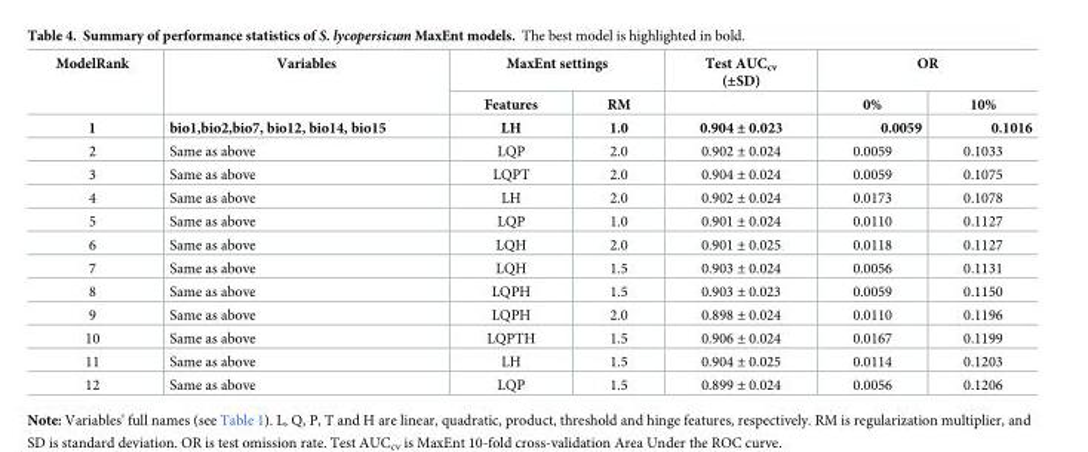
<table><thead><tr><td rowspan="2">ModelRank</td><td rowspan="2">Variables</td><td colspan="2">MaxEnt settings</td><td rowspan="2">Test AUC<sub>cv</sub> (±SD)</td><td colspan="2">OR</td></tr><tr><td>Features</td><td>RM</td><td>0%</td><td>10%</td></tr></thead><tbody><tr><td>1</td><td>bio1,bio2,bio7, bio12, bio14, bio15</td><td>LH</td><td>1.0</td><td>0.904 ± 0.023</td><td>0.0059</td><td>0.1016</td></tr><tr><td>2</td><td>Same as above</td><td>LQP</td><td>2.0</td><td>0.902 ± 0.024</td><td>0.0059</td><td>0.1033</td></tr><tr><td>3</td><td>Same as above</td><td>LQPT</td><td>2.0</td><td>0.904 ± 0.024</td><td>0.0059</td><td>0.1075</td></tr><tr><td>4</td><td>Same as above</td><td>LH</td><td>2.0</td><td>0.902 ± 0.024</td><td>0.0173</td><td>0.1078</td></tr><tr><td>5</td><td>Same as above</td><td>LQP</td><td>1.0</td><td>0.901 ± 0.024</td><td>0.0110</td><td>0.1127</td></tr><tr><td>6</td><td>Same as above</td><td>LQH</td><td>2.0</td><td>0.901 ± 0.025</td><td>0.0118</td><td>0.1127</td></tr><tr><td>7</td><td>Same as above</td><td>LQH</td><td>1.5</td><td>0.903 ± 0.024</td><td>0.0056</td><td>0.1131</td></tr><tr><td>8</td><td>Same as above</td><td>LQPH</td><td>1.5</td><td>0.903 ± 0.023</td><td>0.0059</td><td>0.1150</td></tr><tr><td>9</td><td>Same as above</td><td>LQPH</td><td>2.0</td><td>0.898 ± 0.024</td><td>0.0110</td><td>0.1196</td></tr><tr><td>10</td><td>Same as above</td><td>LQPTH</td><td>1.5</td><td>0.906 ± 0.024</td><td>0.0167</td><td>0.1199</td></tr><tr><td>11</td><td>Same as above</td><td>LH</td><td>1.5</td><td>0.904 ± 0.025</td><td>0.0114</td><td>0.1203</td></tr><tr><td>12</td><td>Same as above</td><td>LQP</td><td>1.5</td><td>0.899 ± 0.024</td><td>0.0056</td><td>0.1206</td></tr></tbody></table>